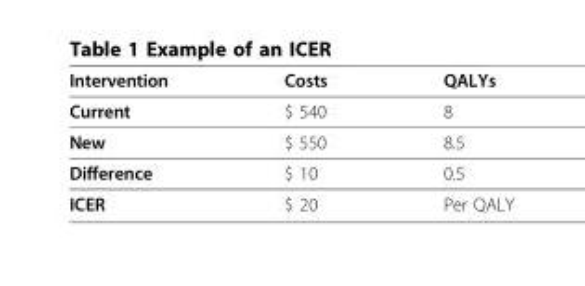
<table><thead><tr><td>Intervention</td><td>Costs</td><td>QALYs</td></tr></thead><tbody><tr><td>Current</td><td>$ 540</td><td>8</td></tr><tr><td>New</td><td>$ 550</td><td>8.5</td></tr><tr><td>Difference</td><td>$ 10</td><td>0.5</td></tr><tr><td>ICER</td><td>$ 20</td><td>Per QALY</td></tr></tbody></table>